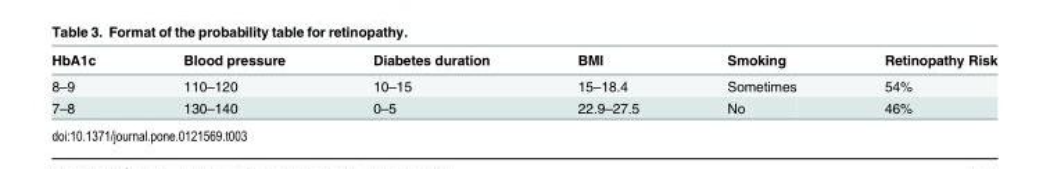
<table><thead><tr><td>HbA1c</td><td>Blood pressure</td><td>Diabetes duration</td><td>BMI</td><td>Smoking</td><td>Retinopathy Risk</td></tr></thead><tbody><tr><td>8–9</td><td>110–120</td><td>10–15</td><td>15–18.4</td><td>Sometimes</td><td>54%</td></tr><tr><td>7–8</td><td>130–140</td><td>0–5</td><td>22.9–27.5</td><td>No</td><td>46%</td></tr></tbody></table>